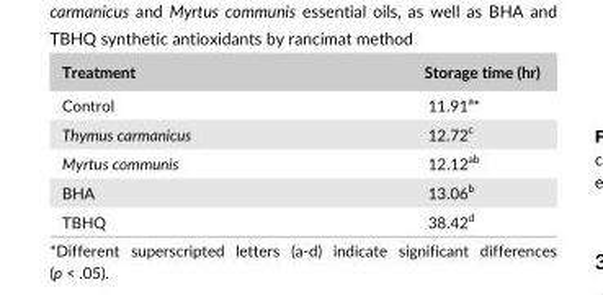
<table><thead><tr><td>Treatment</td><td>Storage time (hr)</td></tr></thead><tbody><tr><td>Control</td><td>11.91<sup>a</sup>*</td></tr><tr><td>Thymus carmanicus</td><td>12.72<sup>c</sup></td></tr><tr><td>Myrtus communis</td><td>12.12<sup>ab</sup></td></tr><tr><td>BHA</td><td>13.06<sup>b</sup></td></tr><tr><td>TBHQ</td><td>38.42<sup>d</sup></td></tr></tbody></table>